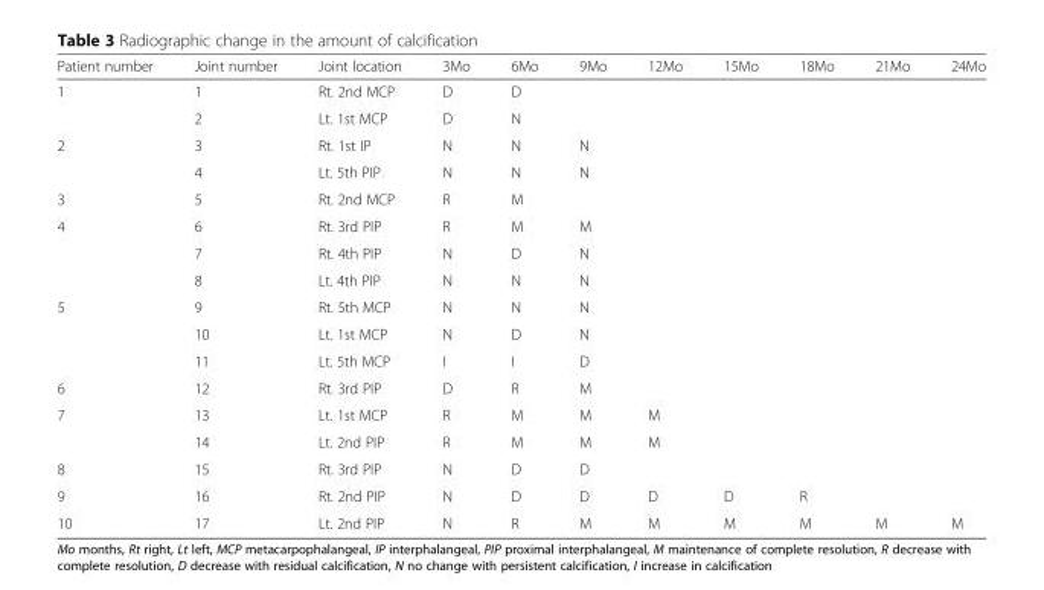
<table><thead><tr><td>Patient number</td><td>Joint number</td><td>Joint location</td><td>3Mo</td><td>6Mo</td><td>9Mo</td><td>12Mo</td><td>15Mo</td><td>18Mo</td><td>21Mo</td><td>24Mo</td></tr></thead><tbody><tr><td rowspan="2">1</td><td>1</td><td>Rt. 2nd MCP</td><td>D</td><td>D</td><td></td><td></td><td></td><td></td><td></td><td></td></tr><tr><td>2</td><td>Lt. 1st MCP</td><td>D</td><td>N</td><td></td><td></td><td></td><td></td><td></td><td></td></tr><tr><td rowspan="2">2</td><td>3</td><td>Rt. 1st IP</td><td>N</td><td>N</td><td>N</td><td></td><td></td><td></td><td></td><td></td></tr><tr><td>4</td><td>Lt. 5th PIP</td><td>N</td><td>N</td><td>N</td><td></td><td></td><td></td><td></td><td></td></tr><tr><td>3</td><td>5</td><td>Rt. 2nd MCP</td><td>R</td><td>M</td><td></td><td></td><td></td><td></td><td></td><td></td></tr><tr><td rowspan="3">4</td><td>6</td><td>Rt. 3rd PIP</td><td>R</td><td>M</td><td>M</td><td></td><td></td><td></td><td></td><td></td></tr><tr><td>7</td><td>Rt. 4th PIP</td><td>N</td><td>D</td><td>N</td><td></td><td></td><td></td><td></td><td></td></tr><tr><td>8</td><td>Lt. 4th PIP</td><td>N</td><td>N</td><td>N</td><td></td><td></td><td></td><td></td><td></td></tr><tr><td rowspan="3">5</td><td>9</td><td>Rt. 5th MCP</td><td>N</td><td>N</td><td>N</td><td></td><td></td><td></td><td></td><td></td></tr><tr><td>10</td><td>Lt. 1st MCP</td><td>N</td><td>D</td><td>N</td><td></td><td></td><td></td><td></td><td></td></tr><tr><td>11</td><td>Lt. 5th MCP</td><td>I</td><td>I</td><td>D</td><td></td><td></td><td></td><td></td><td></td></tr><tr><td>6</td><td>12</td><td>Rt. 3rd PIP</td><td>D</td><td>R</td><td>M</td><td></td><td></td><td></td><td></td><td></td></tr><tr><td rowspan="2">7</td><td>13</td><td>Lt. 1st MCP</td><td>R</td><td>M</td><td>M</td><td>M</td><td></td><td></td><td></td><td></td></tr><tr><td>14</td><td>Lt. 2nd PIP</td><td>R</td><td>M</td><td>M</td><td>M</td><td></td><td></td><td></td><td></td></tr><tr><td>8</td><td>15</td><td>Rt. 3rd PIP</td><td>N</td><td>D</td><td>D</td><td></td><td></td><td></td><td></td><td></td></tr><tr><td>9</td><td>16</td><td>Rt. 2nd PIP</td><td>N</td><td>D</td><td>D</td><td>D</td><td>D</td><td>R</td><td></td><td></td></tr><tr><td>10</td><td>17</td><td>Lt. 2nd PIP</td><td>N</td><td>R</td><td>M</td><td>M</td><td>M</td><td>M</td><td>M</td><td>M</td></tr></tbody></table>